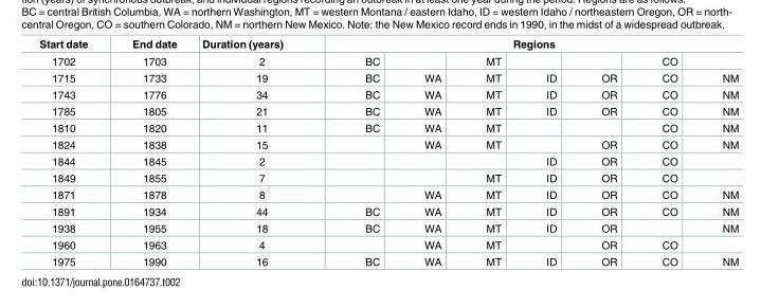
<table><thead><tr><td rowspan="2">Start date 1702</td><td rowspan="2">End date 1703</td><td rowspan="2">Duration (years) 2</td><td colspan="7">Regions</td></tr><tr><td>BC</td><td></td><td>MT</td><td></td><td></td><td>CO</td><td></td></tr></thead><tbody><tr><td>1715</td><td>1733</td><td>19</td><td>BC</td><td>WA</td><td>MT</td><td>ID</td><td>OR</td><td>CO</td><td>NM</td></tr><tr><td>1743</td><td>1776</td><td>34</td><td>BC</td><td>WA</td><td>MT</td><td>ID</td><td>OR</td><td>CO</td><td>NM</td></tr><tr><td>1785</td><td>1805</td><td>21</td><td>BC</td><td>WA</td><td>MT</td><td>ID</td><td>OR</td><td>CO</td><td>NM</td></tr><tr><td>1810</td><td>1820</td><td>11</td><td>BC</td><td>WA</td><td>MT</td><td></td><td></td><td>CO</td><td>NM</td></tr><tr><td>1824</td><td>1838</td><td>15</td><td></td><td>WA</td><td>MT</td><td></td><td>OR</td><td>CO</td><td>NM</td></tr><tr><td>1844</td><td>1845</td><td>2</td><td></td><td></td><td></td><td>ID</td><td>OR</td><td>CO</td><td></td></tr><tr><td>1849</td><td>1855</td><td>7</td><td></td><td></td><td>MT</td><td>ID</td><td>OR</td><td>CO</td><td></td></tr><tr><td>1871</td><td>1878</td><td>8</td><td></td><td>WA</td><td>MT</td><td>ID</td><td>OR</td><td>CO</td><td>NM</td></tr><tr><td>1891</td><td>1934</td><td>44</td><td>BC</td><td>WA</td><td>MT</td><td>ID</td><td>OR</td><td>CO</td><td>NM</td></tr><tr><td>1938</td><td>1955</td><td>18</td><td>BC</td><td>WA</td><td>MT</td><td>ID</td><td>OR</td><td></td><td>NM</td></tr><tr><td>1960</td><td>1963</td><td>4</td><td></td><td>WA</td><td>MT</td><td></td><td>OR</td><td>CO</td><td></td></tr><tr><td>1975</td><td>1990</td><td>16</td><td>BC</td><td>WA</td><td>MT</td><td>ID</td><td>OR</td><td>CO</td><td>NM</td></tr></tbody></table>